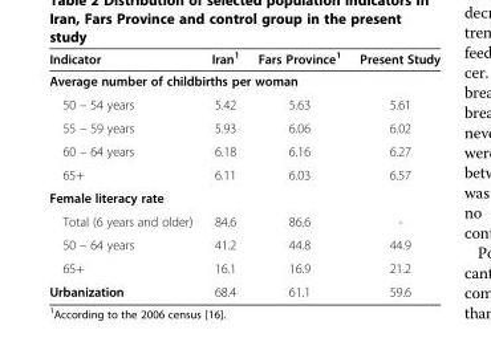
<table><thead><tr><td>Indicator</td><td>Iran<sup>1</sup></td><td>Fars Province<sup>1</sup></td><td>Present Study</td></tr></thead><tbody><tr><td colspan="4">Average number of childbirths per woman</td></tr><tr><td>50 – 54 years</td><td>5.42</td><td>5.63</td><td>5.61</td></tr><tr><td>55 – 59 years</td><td>5.93</td><td>6.06</td><td>6.02</td></tr><tr><td>60 – 64 years</td><td>6.18</td><td>6.16</td><td>6.27</td></tr><tr><td>65+</td><td>6.11</td><td>6.03</td><td>6.57</td></tr><tr><td colspan="4">Female literacy rate</td></tr><tr><td>Total (6 years and older)</td><td>84.6</td><td>86.6</td><td>-</td></tr><tr><td>50 – 64 years</td><td>41.2</td><td>44.8</td><td>44.9</td></tr><tr><td>65+</td><td>16.1</td><td>16.9</td><td>21.2</td></tr><tr><td>Urbanization</td><td>68.4</td><td>61.1</td><td>59.6</td></tr></tbody></table>